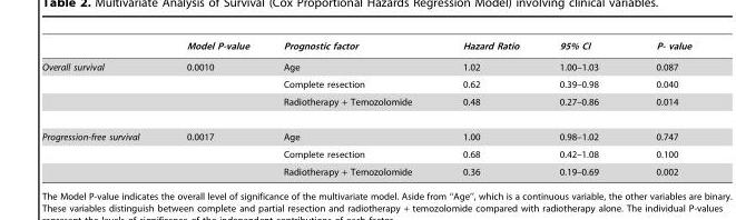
<table><thead><tr><td></td><td>Model P-value</td><td>Prognostic factor</td><td>Hazard Ratio</td><td>95% CI</td><td>P- value</td></tr></thead><tbody><tr><td rowspan="3">Overall survival</td><td>0.0010</td><td>Age</td><td>1.02</td><td>1.00–1.03</td><td>0.087</td></tr><tr><td></td><td>Complete resection</td><td>0.62</td><td>0.39–0.98</td><td>0.040</td></tr><tr><td></td><td>Radiotherapy + Temozolomide</td><td>0.48</td><td>0.27–0.86</td><td>0.014</td></tr><tr><td rowspan="3">Progression-free survival</td><td>0.0017</td><td>Age</td><td>1.00</td><td>0.98–1.02</td><td>0.747</td></tr><tr><td></td><td>Complete resection</td><td>0.68</td><td>0.42–1.08</td><td>0.100</td></tr><tr><td></td><td>Radiotherapy + Temozolomide</td><td>0.36</td><td>0.19–0.69</td><td>0.002</td></tr></tbody></table>